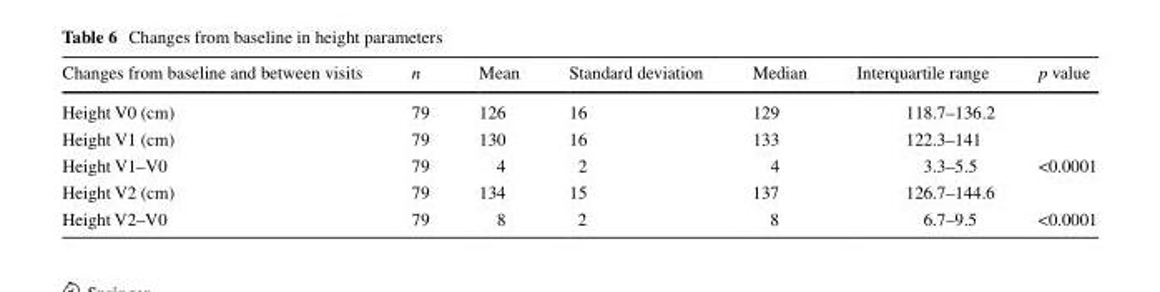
<table><thead><tr><td>Changes from baseline and between visits</td><td>n</td><td>Mean</td><td>Standard deviation</td><td>Median</td><td>Interquartile range</td><td>p value</td></tr></thead><tbody><tr><td>Height V0 (cm)</td><td>79</td><td>126</td><td>16</td><td>129</td><td>118.7–136.2</td><td></td></tr><tr><td>Height V1 (cm)</td><td>79</td><td>130</td><td>16</td><td>133</td><td>122.3–141</td><td></td></tr><tr><td>Height V1–V0</td><td>79</td><td>4</td><td>2</td><td>4</td><td>3.3–5.5</td><td>&lt;0.0001</td></tr><tr><td>Height V2 (cm)</td><td>79</td><td>134</td><td>15</td><td>137</td><td>126.7–144.6</td><td></td></tr><tr><td>Height V2–V0</td><td>79</td><td>8</td><td>2</td><td>8</td><td>6.7–9.5</td><td>&lt;0.0001</td></tr></tbody></table>